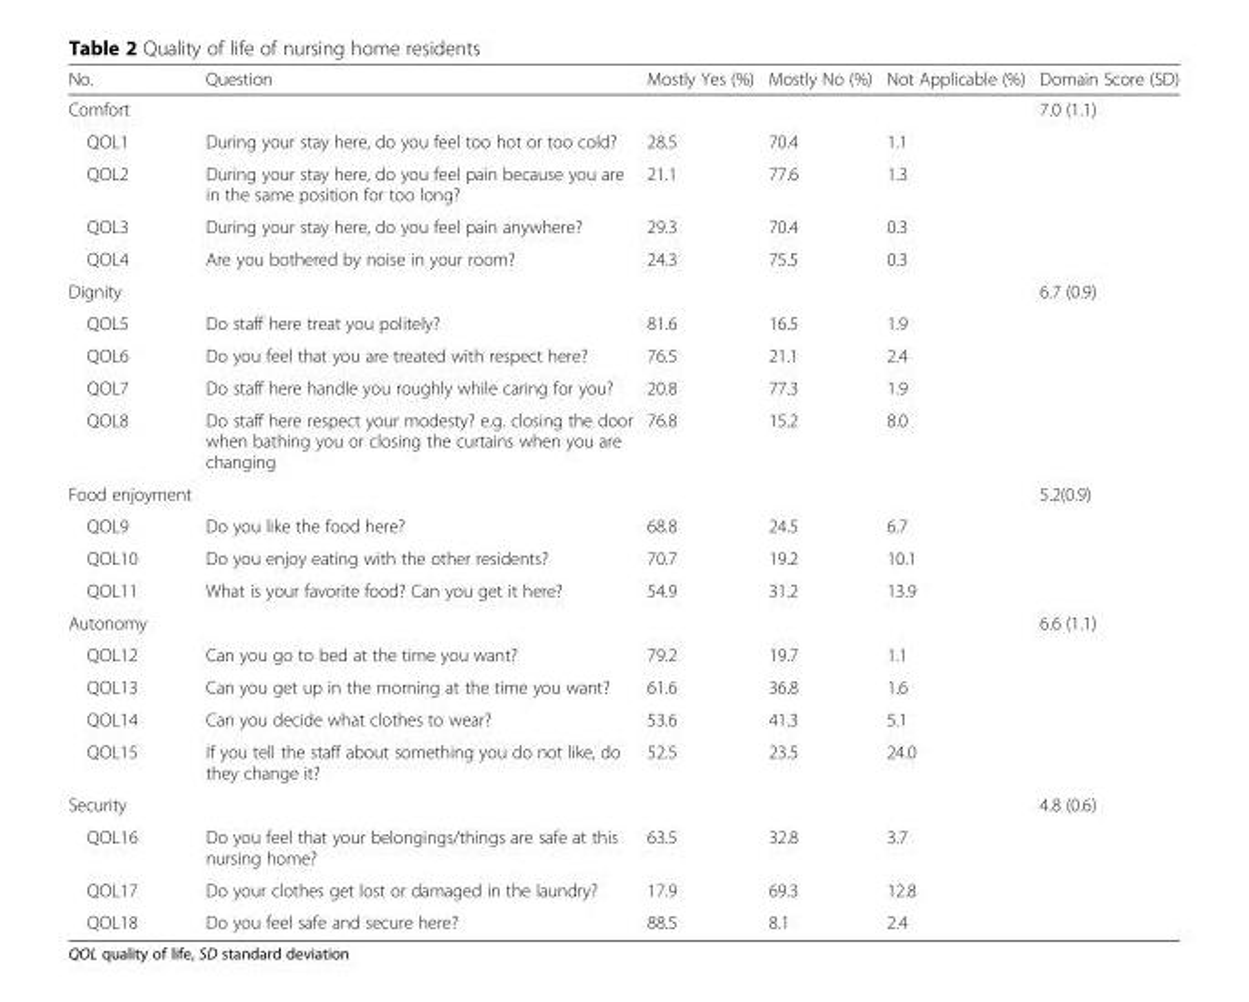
<table><thead><tr><td>No.</td><td>Question</td><td>Mostly Yes (%)</td><td>Mostly No (%)</td><td>Not Applicable (%)</td><td>Domain Score (SD)</td></tr></thead><tbody><tr><td>Comfort</td><td></td><td></td><td></td><td></td><td>7.0 (1.1)</td></tr><tr><td>QOL1</td><td>During your stay here, do you feel too hot or too cold?</td><td>28.5</td><td>70.4</td><td>1.1</td><td></td></tr><tr><td>QOL2</td><td>During your stay here, do you feel pain because you are in the same position for too long?</td><td>21.1</td><td>77.6</td><td>1.3</td><td></td></tr><tr><td>QOL3</td><td>During your stay here, do you feel pain anywhere?</td><td>29.3</td><td>70.4</td><td>0.3</td><td></td></tr><tr><td>QOL4</td><td>Are you bothered by noise in your room?</td><td>24.3</td><td>75.5</td><td>0.3</td><td></td></tr><tr><td>Dignity</td><td></td><td></td><td></td><td></td><td>6.7 (0.9)</td></tr><tr><td>QOL5</td><td>Do staff here treat you politely?</td><td>81.6</td><td>16.5</td><td>1.9</td><td></td></tr><tr><td>QOL6</td><td>Do you feel that you are treated with respect here?</td><td>76.5</td><td>21.1</td><td>2.4</td><td></td></tr><tr><td>QOL7</td><td>Do staff here handle you roughly while caring for you?</td><td>20.8</td><td>77.3</td><td>1.9</td><td></td></tr><tr><td>QOL8</td><td>Do staff here respect your modesty? e.g. closing the door when bathing you or closing the curtains when you are changing</td><td>76.8</td><td>15.2</td><td>8.0</td><td></td></tr><tr><td>Food enjoyment</td><td></td><td></td><td></td><td></td><td>5.2(0.9)</td></tr><tr><td>QOL9</td><td>Do you like the food here?</td><td>68.8</td><td>24.5</td><td>6.7</td><td></td></tr><tr><td>QOL10</td><td>Do you enjoy eating with the other residents?</td><td>70.7</td><td>19.2</td><td>10.1</td><td></td></tr><tr><td>QOL11</td><td>What is your favorite food? Can you get it here?</td><td>54.9</td><td>31.2</td><td>13.9</td><td></td></tr><tr><td>Autonomy</td><td></td><td></td><td></td><td></td><td>6.6 (1.1)</td></tr><tr><td>QOL12</td><td>Can you go to bed at the time you want?</td><td>79.2</td><td>19.7</td><td>1.1</td><td></td></tr><tr><td>QOL13</td><td>Can you get up in the morning at the time you want?</td><td>61.6</td><td>36.8</td><td>1.6</td><td></td></tr><tr><td>QOL14</td><td>Can you decide what clothes to wear?</td><td>53.6</td><td>41.3</td><td>5.1</td><td></td></tr><tr><td>QOL15</td><td>If you tell the staff about something you do not like, do they change it?</td><td>52.5</td><td>23.5</td><td>24.0</td><td></td></tr><tr><td>Security</td><td></td><td></td><td></td><td></td><td>4.8 (0.6)</td></tr><tr><td>QOL16</td><td>Do you feel that your belongings/things are safe at this nursing home?</td><td>63.5</td><td>32.8</td><td>3.7</td><td></td></tr><tr><td>QOL17</td><td>Do your clothes get lost or damaged in the laundry?</td><td>17.9</td><td>69.3</td><td>12.8</td><td></td></tr><tr><td>QOL18</td><td>Do you feel safe and secure here?</td><td>88.5</td><td>8.1</td><td>2.4</td><td></td></tr></tbody></table>